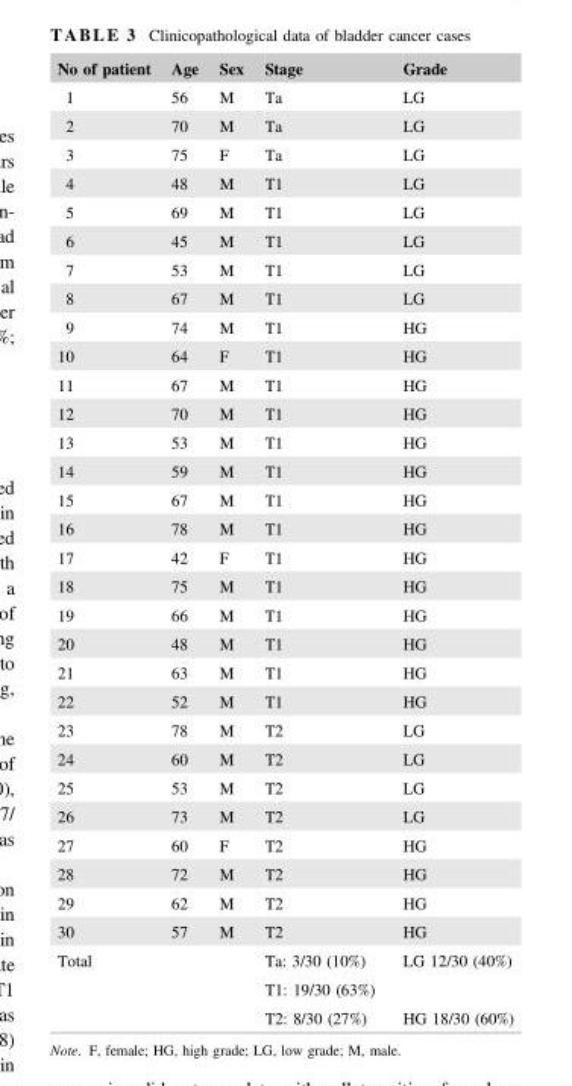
<table><thead><tr><td>No of patient</td><td>Age</td><td>Sex</td><td>Stage</td><td>Grade</td></tr></thead><tbody><tr><td>1</td><td>56</td><td>M</td><td>Ta</td><td>LG</td></tr><tr><td>2</td><td>70</td><td>M</td><td>Ta</td><td>LG</td></tr><tr><td>3</td><td>75</td><td>F</td><td>Ta</td><td>LG</td></tr><tr><td>4</td><td>48</td><td>M</td><td>T1</td><td>LG</td></tr><tr><td>5</td><td>69</td><td>M</td><td>T1</td><td>LG</td></tr><tr><td>6</td><td>45</td><td>M</td><td>T1</td><td>LG</td></tr><tr><td>7</td><td>53</td><td>M</td><td>T1</td><td>LG</td></tr><tr><td>8</td><td>67</td><td>M</td><td>T1</td><td>LG</td></tr><tr><td>9</td><td>74</td><td>M</td><td>T1</td><td>HG</td></tr><tr><td>10</td><td>64</td><td>F</td><td>T1</td><td>HG</td></tr><tr><td>11</td><td>67</td><td>M</td><td>T1</td><td>HG</td></tr><tr><td>12</td><td>70</td><td>M</td><td>T1</td><td>HG</td></tr><tr><td>13</td><td>53</td><td>M</td><td>T1</td><td>HG</td></tr><tr><td>14</td><td>59</td><td>M</td><td>T1</td><td>HG</td></tr><tr><td>15</td><td>67</td><td>M</td><td>T1</td><td>HG</td></tr><tr><td>16</td><td>78</td><td>M</td><td>T1</td><td>HG</td></tr><tr><td>17</td><td>42</td><td>F</td><td>T1</td><td>HG</td></tr><tr><td>18</td><td>75</td><td>M</td><td>T1</td><td>HG</td></tr><tr><td>19</td><td>66</td><td>M</td><td>T1</td><td>HG</td></tr><tr><td>20</td><td>48</td><td>M</td><td>T1</td><td>HG</td></tr><tr><td>21</td><td>63</td><td>M</td><td>T1</td><td>HG</td></tr><tr><td>22</td><td>52</td><td>M</td><td>T1</td><td>HG</td></tr><tr><td>23</td><td>78</td><td>M</td><td>T2</td><td>LG</td></tr><tr><td>24</td><td>60</td><td>M</td><td>T2</td><td>LG</td></tr><tr><td>25</td><td>53</td><td>M</td><td>T2</td><td>LG</td></tr><tr><td>26</td><td>73</td><td>M</td><td>T2</td><td>LG</td></tr><tr><td>27</td><td>60</td><td>F</td><td>T2</td><td>HG</td></tr><tr><td>28</td><td>72</td><td>M</td><td>T2</td><td>HG</td></tr><tr><td>29</td><td>62</td><td>M</td><td>T2</td><td>HG</td></tr><tr><td>30</td><td>57</td><td>M</td><td>T2</td><td>HG</td></tr><tr><td rowspan="3" colspan="3">Total</td><td>Ta: 3/30 (10%)</td><td rowspan="2">LG 12/30 (40%)</td></tr><tr><td>T1: 19/30 (63%)</td></tr><tr><td>T2: 8/30 (27%)</td><td>HG 18/30 (60%)</td></tr></tbody></table>